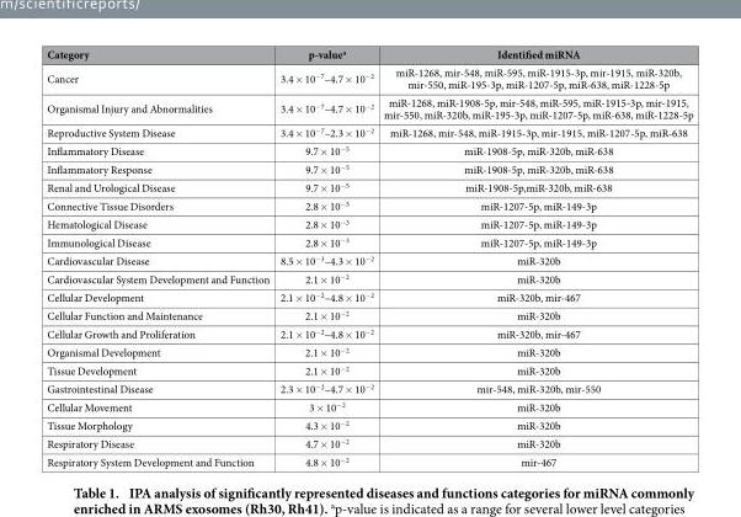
<table><thead><tr><td>Category</td><td>p-value<sup>a</sup></td><td>Identified miRNA</td></tr></thead><tbody><tr><td>Cancer</td><td>3.4 × 10<sup>−7</sup>–4.7 × 10<sup>−2</sup></td><td>miR-1268, mir-548, miR-595, miR-1915-3p, mir-1915, miR-320b, mir-550, miR-195-3p, miR-1207-5p, miR-638, miR-1228-5p</td></tr><tr><td>Organismal Injury and Abnormalities</td><td>3.4 × 10<sup>−7</sup>–4.7 × 10<sup>−2</sup></td><td>miR-1268, miR-1908-5p, mir-548, miR-595, miR-1915-3p, mir-1915, mir-550, miR-320b, miR-195-3p, miR-1207-5p, miR-638, miR-1228-5p</td></tr><tr><td>Reproductive System Disease</td><td>3.4 × 10<sup>−7</sup>–2.3 × 10<sup>−2</sup></td><td>miR-1268, mir-548, miR-1915-3p, mir-1915, miR-1207-5p, miR-638</td></tr><tr><td>Inflammatory Disease</td><td>9.7 × 10<sup>−5</sup></td><td>miR-1908-5p, miR-320b, miR-638</td></tr><tr><td>Inflammatory Response</td><td>9.7 × 10<sup>−5</sup></td><td>miR-1908-5p, miR-320b, miR-638</td></tr><tr><td>Renal and Urological Disease</td><td>9.7 × 10<sup>−5</sup></td><td>miR-1908-5p,miR-320b, miR-638</td></tr><tr><td>Connective Tissue Disorders</td><td>2.8 × 10<sup>−3</sup></td><td>miR-1207-5p, miR-149-3p</td></tr><tr><td>Hematological Disease</td><td>2.8 × 10<sup>−3</sup></td><td>miR-1207-5p, miR-149-3p</td></tr><tr><td>Immunological Disease</td><td>2.8 × 10<sup>−3</sup></td><td>miR-1207-5p, miR-149-3p</td></tr><tr><td>Cardiovascular Disease</td><td>8.5 × 10<sup>−3</sup>–4.3 × 10<sup>−2</sup></td><td>miR-320b</td></tr><tr><td>Cardiovascular System Development and Function</td><td>2.1 × 10<sup>−2</sup></td><td>miR-320b</td></tr><tr><td>Cellular Development</td><td>2.1 × 10<sup>−2</sup>–4.8 × 10<sup>−2</sup></td><td>miR-320b, mir-467</td></tr><tr><td>Cellular Function and Maintenance</td><td>2.1 × 10<sup>−2</sup></td><td>miR-320b</td></tr><tr><td>Cellular Growth and Proliferation</td><td>2.1 × 10<sup>−2</sup>–4.8 × 10<sup>−2</sup></td><td>miR-320b, mir-467</td></tr><tr><td>Organismal Development</td><td>2.1 × 10<sup>−2</sup></td><td>miR-320b</td></tr><tr><td>Tissue Development</td><td>2.1 × 10<sup>−2</sup></td><td>miR-320b</td></tr><tr><td>Gastrointestinal Disease</td><td>2.3 × 10<sup>−2</sup>–4.7 × 10<sup>−2</sup></td><td>mir-548, miR-320b, mir-550</td></tr><tr><td>Cellular Movement</td><td>3 × 10<sup>−2</sup></td><td>miR-320b</td></tr><tr><td>Tissue Morphology</td><td>4.3 × 10<sup>−2</sup></td><td>miR-320b</td></tr><tr><td>Respiratory Disease</td><td>4.7 × 10<sup>−2</sup></td><td>miR-320b</td></tr><tr><td>Respiratory System Development and Function</td><td>4.8 × 10<sup>−2</sup></td><td>mir-467</td></tr></tbody></table>